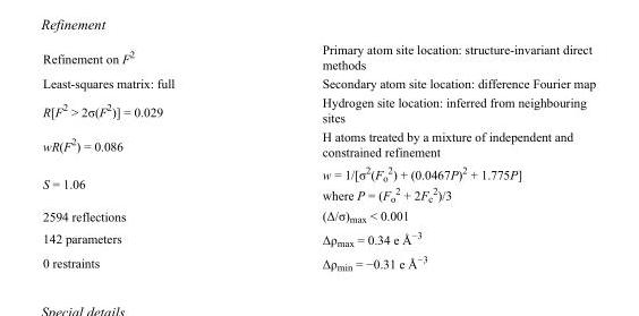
<table><tbody><tr><td>Refinement on F<sup>2</sup></td><td>Primary atom site location: structure-invariant direct methods</td></tr><tr><td>Least-squares matrix: full</td><td>Secondary atom site location: difference Fourier map</td></tr><tr><td>R[F<sup>2</sup> &gt; 2σ(F<sup>2</sup>)] = 0.029</td><td>Hydrogen site location: inferred from neighbouring sites</td></tr><tr><td>wR(F<sup>2</sup>) = 0.086</td><td>H atoms treated by a mixture of independent and constrained refinement</td></tr><tr><td>S = 1.06</td><td>w = 1/[σ<sup>2</sup>(F<sub>o</sub> <sup>2</sup>) + (0.0467P)<sup>2</sup> + 1.775P] where P = (F<sub>o</sub> <sup>2</sup> + 2F<sub>c</sub> <sup>2</sup>)/3</td></tr><tr><td>2594 reflections</td><td>(Δ/σ)<sub>max</sub> &lt; 0.001</td></tr><tr><td>142 parameters</td><td>Δρ<sub>max</sub> = 0.34 e Å<sup>−3</sup></td></tr><tr><td>0 restraints</td><td>Δρ<sub>min</sub> = −0.31 e Å<sup>−3</sup></td></tr></tbody></table>